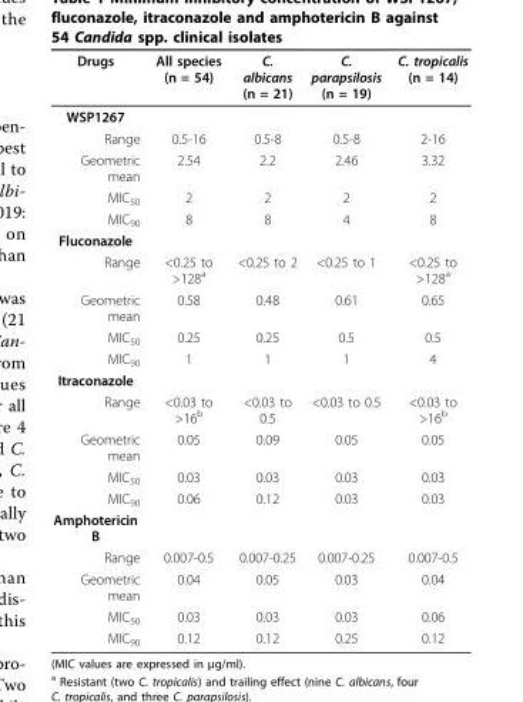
<table><thead><tr><td>Drugs</td><td>All species (n = 54)</td><td>C. albicans (n = 21)</td><td>C. parapsilosis (n = 19)</td><td>C. tropicalis (n = 14)</td></tr></thead><tbody><tr><td colspan="5">WSP1267</td></tr><tr><td>Range</td><td>0.5-16</td><td>0.5-8</td><td>0.5-8</td><td>2-16</td></tr><tr><td>Geometric mean</td><td>2.54</td><td>2.2</td><td>2.46</td><td>3.32</td></tr><tr><td>MIC<sub>50</sub></td><td>2</td><td>2</td><td>2</td><td>2</td></tr><tr><td>MIC<sub>90</sub></td><td>8</td><td>8</td><td>4</td><td>8</td></tr><tr><td colspan="5">Fluconazole</td></tr><tr><td>Range</td><td>&lt;0.25 to &gt;128<sup>a</sup></td><td>&lt;0.25 to 2</td><td>&lt;0.25 to 1</td><td>&lt;0.25 to &gt;128<sup>a</sup></td></tr><tr><td>Geometric mean</td><td>0.58</td><td>0.48</td><td>0.61</td><td>0.65</td></tr><tr><td>MIC<sub>50</sub></td><td>0.25</td><td>0.25</td><td>0.5</td><td>0.5</td></tr><tr><td>MIC<sub>90</sub></td><td>1</td><td>1</td><td>1</td><td>4</td></tr><tr><td colspan="5">Itraconazole</td></tr><tr><td>Range</td><td>&lt;0.03 to &gt;16<sup>b</sup></td><td>&lt;0.03 to 0.5</td><td>&lt;0.03 to 0.5</td><td>&lt;0.03 to &gt;16<sup>b</sup></td></tr><tr><td>Geometric mean</td><td>0.05</td><td>0.09</td><td>0.05</td><td>0.05</td></tr><tr><td>MIC<sub>50</sub></td><td>0.03</td><td>0.03</td><td>0.03</td><td>0.03</td></tr><tr><td>MIC<sub>90</sub></td><td>0.06</td><td>0.12</td><td>0.03</td><td>0.03</td></tr><tr><td colspan="5">Amphotericin B</td></tr><tr><td>Range</td><td>0.007-0.5</td><td>0.007-0.25</td><td>0.007-0.25</td><td>0.007-0.5</td></tr><tr><td>Geometric mean</td><td>0.04</td><td>0.05</td><td>0.03</td><td>0.04</td></tr><tr><td>MIC<sub>50</sub></td><td>0.03</td><td>0.03</td><td>0.03</td><td>0.06</td></tr><tr><td>MIC<sub>90</sub></td><td>0.12</td><td>0.12</td><td>0.25</td><td>0.12</td></tr></tbody></table>